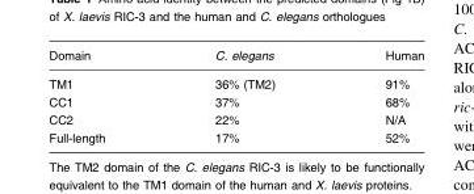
<table><thead><tr><td>Domain</td><td>C. elegans</td><td>Human</td></tr></thead><tbody><tr><td>TM1</td><td>36% (TM2)</td><td>91%</td></tr><tr><td>CC1</td><td>37%</td><td>68%</td></tr><tr><td>CC2</td><td>22%</td><td>N/A</td></tr><tr><td>Full-length</td><td>17%</td><td>52%</td></tr></tbody></table>